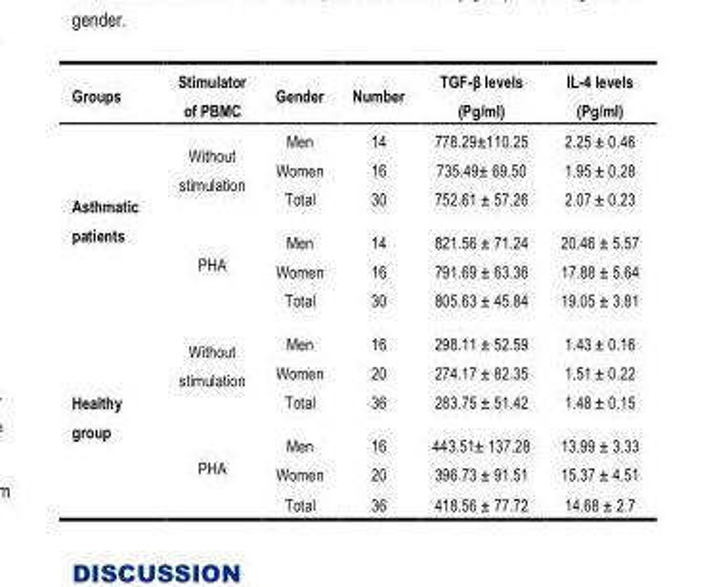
<table><thead><tr><td>Groups</td><td>Stimulator of PBMC</td><td>Gender</td><td>Number</td><td>TGF-β levels (Pg/ml)</td><td>IL-4 levels (Pg/ml)</td></tr></thead><tbody><tr><td rowspan="6">Asthmatic patients</td><td rowspan="3">Without stimulation</td><td>Men</td><td>14</td><td>778.29±110.25</td><td>2.25 ± 0.46</td></tr><tr><td>Women</td><td>16</td><td>735.49± 69.50</td><td>1.95 ± 0.28</td></tr><tr><td>Total</td><td>30</td><td>752.61 ± 57.26</td><td>2.07 ± 0.23</td></tr><tr><td rowspan="3">PHA</td><td>Men</td><td>14</td><td>821.56 ± 71.24</td><td>20.46 ± 5.57</td></tr><tr><td>Women</td><td>16</td><td>791.69 ± 63.36</td><td>17.88 ± 5.64</td></tr><tr><td>Total</td><td>30</td><td>805.63 ± 45.84</td><td>19.05 ± 3.81</td></tr><tr><td rowspan="6">Healthy group</td><td rowspan="3">Without stimulation</td><td>Men</td><td>16</td><td>298.11 ± 52.59</td><td>1.43 ± 0.16</td></tr><tr><td>Women</td><td>20</td><td>274.17 ± 82.35</td><td>1.51 ± 0.22</td></tr><tr><td>Total</td><td>36</td><td>283.75 ± 51.42</td><td>1.48 ± 0.15</td></tr><tr><td rowspan="3">PHA</td><td>Men</td><td>16</td><td>443.51± 137.28</td><td>13.99 ± 3.33</td></tr><tr><td>Women</td><td>20</td><td>396.73 ± 91.51</td><td>15.37 ± 4.51</td></tr><tr><td>Total</td><td>36</td><td>418.56 ± 77.72</td><td>14.68 ± 2.7</td></tr></tbody></table>